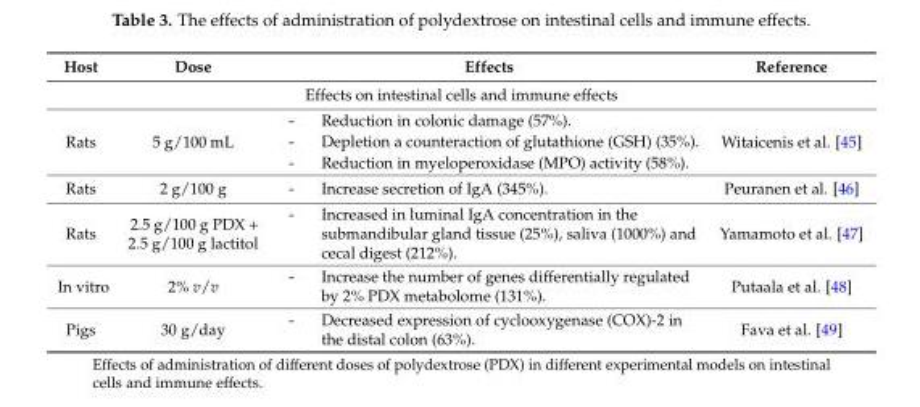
<table><thead><tr><td>Host</td><td>Dose</td><td>Effects</td><td>Reference</td></tr></thead><tbody><tr><td colspan="4">Effects on intestinal cells and immune effects</td></tr><tr><td>Rats</td><td>5 g/100 mL</td><td>- Reduction in colonic damage (57%). - Depletion a counteraction of glutathione (GSH) (35%). - Reduction in myeloperoxidase (MPO) activity (58%).</td><td>Witaicenis et al. [45]</td></tr><tr><td>Rats</td><td>2 g/100 g</td><td>- Increase secretion of IgA (345%).</td><td>Peuranen et al. [46]</td></tr><tr><td>Rats</td><td>2.5 g/100 g PDX + 2.5 g/100 g lactitol</td><td>- Increased in luminal IgA concentration in the submandibular gland tissue (25%), saliva (1000%) and cecal digest (212%).</td><td>Yamamoto et al. [47]</td></tr><tr><td>In vitro</td><td>2% v/v</td><td>- Increase the number of genes differentially regulated by 2% PDX metabolome (131%).</td><td>Putaala et al. [48]</td></tr><tr><td>Pigs</td><td>30 g/day</td><td>- Decreased expression of cyclooxygenase (COX)-2 in the distal colon (63%).</td><td>Fava et al. [49]</td></tr></tbody></table>